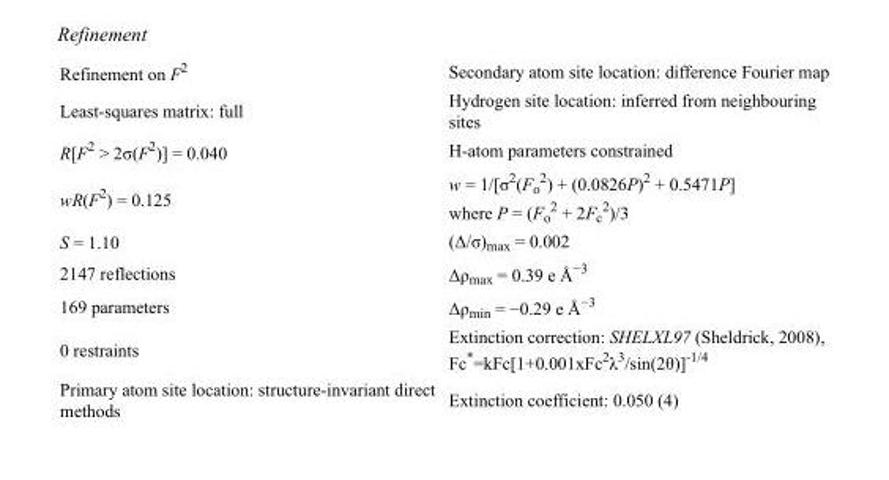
<table><tbody><tr><td>Refinement on F<sup>2</sup></td><td>Secondary atom site location: difference Fourier map</td></tr><tr><td>Least-squares matrix: full</td><td>Hydrogen site location: inferred from neighbouring sites</td></tr><tr><td>R[F<sup>2</sup> &gt; 2σ(F<sup>2</sup>)] = 0.040</td><td>H-atom parameters constrained</td></tr><tr><td>wR(F<sup>2</sup>) = 0.125</td><td>w = 1/[σ<sup>2</sup>(F<sub>o</sub> <sup>2</sup>) + (0.0826P)<sup>2</sup> + 0.5471P] where P = (F<sub>o</sub> <sup>2</sup> + 2F<sub>c</sub> <sup>2</sup>)/3</td></tr><tr><td>S = 1.10</td><td>(Δ/σ)<sub>max</sub> = 0.002</td></tr><tr><td>2147 reflections</td><td>Δρ<sub>max</sub> = 0.39 e Å<sup>−3</sup></td></tr><tr><td>169 parameters</td><td>Δρ<sub>min</sub> = −0.29 e Å<sup>−3</sup></td></tr><tr><td>0 restraints</td><td>Extinction correction: SHELXL97 (Sheldrick, 2008), Fc*=kFc[1+0.001xFc<sup>2</sup>λ<sup>3</sup>/sin(2θ)]<sup>-1/4</sup></td></tr><tr><td>Primary atom site location: structure-invariant direct methods</td><td>Extinction coefficient: 0.050 (4)</td></tr></tbody></table>